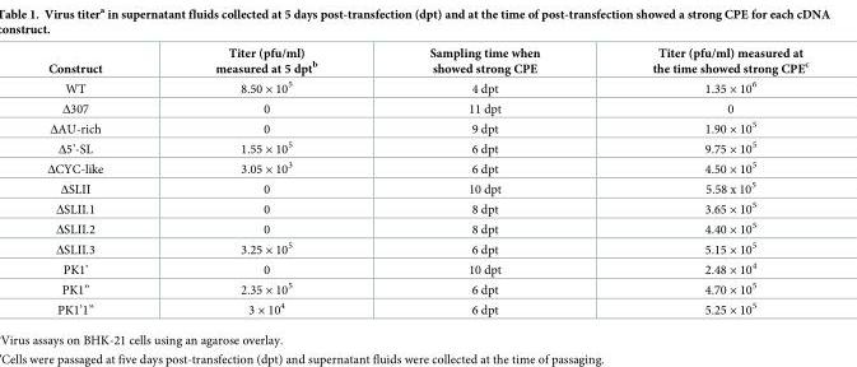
<table><thead><tr><td>Construct</td><td>Titer (pfu/ml) measured at 5 dpt<sup>b</sup></td><td>Sampling time when showed strong CPE</td><td>Titer (pfu/ml) measured at the time showed strong CPE<sup>c</sup></td></tr></thead><tbody><tr><td>WT</td><td>8.50 × 10<sup>5</sup></td><td>4 dpt</td><td>1.35 × 10<sup>6</sup></td></tr><tr><td>Δ307</td><td>0</td><td>11 dpt</td><td>0</td></tr><tr><td>ΔAU-rich</td><td>0</td><td>9 dpt</td><td>1.90 × 10<sup>5</sup></td></tr><tr><td>Δ5’-SL</td><td>1.55 × 10<sup>5</sup></td><td>6 dpt</td><td>9.75 × 10<sup>5</sup></td></tr><tr><td>ΔCYC-like</td><td>3.05 × 10<sup>3</sup></td><td>6 dpt</td><td>4.50 × 10<sup>5</sup></td></tr><tr><td>ΔSLII</td><td>0</td><td>10 dpt</td><td>5.58 x 10<sup>5</sup></td></tr><tr><td>ΔSLII.1</td><td>0</td><td>8 dpt</td><td>3.65 × 10<sup>5</sup></td></tr><tr><td>ΔSLII.2</td><td>0</td><td>8 dpt</td><td>4.40 × 10<sup>5</sup></td></tr><tr><td>ΔSLII.3</td><td>3.25 × 10<sup>5</sup></td><td>6 dpt</td><td>5.15 × 10<sup>5</sup></td></tr><tr><td>PK1’</td><td>0</td><td>10 dpt</td><td>2.48 × 10<sup>4</sup></td></tr><tr><td>PK1”</td><td>2.35 × 10<sup>5</sup></td><td>6 dpt</td><td>4.70 × 10<sup>5</sup></td></tr><tr><td>PK1’1”</td><td>3 × 10<sup>4</sup></td><td>6 dpt</td><td>5.25 × 10<sup>5</sup></td></tr></tbody></table>